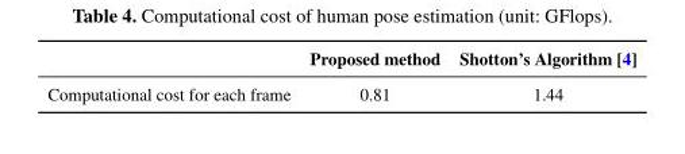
<table><thead><tr><td></td><td>Proposed method</td><td>Shotton’s Algorithm [4]</td></tr></thead><tbody><tr><td>Computational cost for each frame</td><td>0.81</td><td>1.44</td></tr></tbody></table>